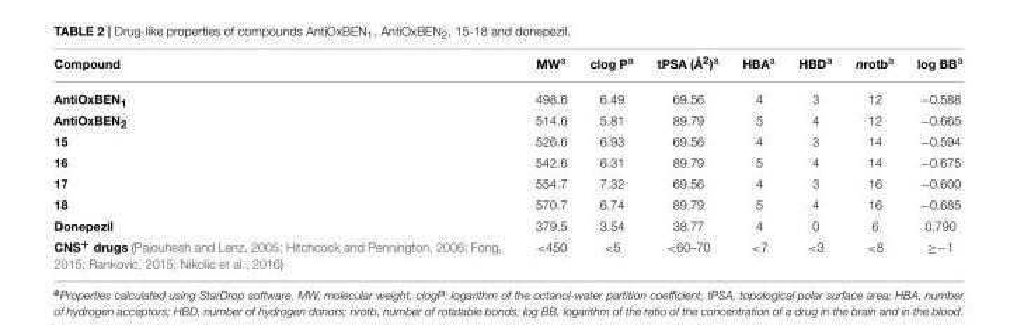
<table><thead><tr><td>Compound</td><td>MW<sup>a</sup></td><td>clog P<sup>a</sup></td><td>tPSA (Å<sup>2</sup>)<sup>a</sup></td><td>HBA<sup>a</sup></td><td>HBD<sup>a</sup></td><td>nrotb<sup>a</sup></td><td>log BB<sup>a</sup></td></tr></thead><tbody><tr><td>AntiOxBEN<sub>1</sub></td><td>498.6</td><td>6.49</td><td>69.56</td><td>4</td><td>3</td><td>12</td><td>−0.588</td></tr><tr><td>AntiOxBEN<sub>2</sub></td><td>514.6</td><td>5.81</td><td>89.79</td><td>5</td><td>4</td><td>12</td><td>−0.665</td></tr><tr><td>15</td><td>526.6</td><td>6.93</td><td>69.56</td><td>4</td><td>3</td><td>14</td><td>−0.594</td></tr><tr><td>16</td><td>542.6</td><td>6.31</td><td>89.79</td><td>5</td><td>4</td><td>14</td><td>−0.675</td></tr><tr><td>17</td><td>554.7</td><td>7.32</td><td>69.56</td><td>4</td><td>3</td><td>16</td><td>−0.600</td></tr><tr><td>18</td><td>570.7</td><td>6.74</td><td>89.79</td><td>5</td><td>4</td><td>16</td><td>−0.685</td></tr><tr><td>Donepezil</td><td>379.5</td><td>3.54</td><td>38.77</td><td>4</td><td>0</td><td>6</td><td>0.790</td></tr><tr><td>CNS<sup>+</sup> drugs (Pajouhesh and Lenz, 2005; Hitchcock and Pennington, 2006; Fong, 2015; Rankovic, 2015; Nikolic et al., 2016)</td><td>&lt;450</td><td>&lt;5</td><td>&lt;60–70</td><td>&lt;7</td><td>&lt;3</td><td>&lt;8</td><td>≥−1</td></tr></tbody></table>